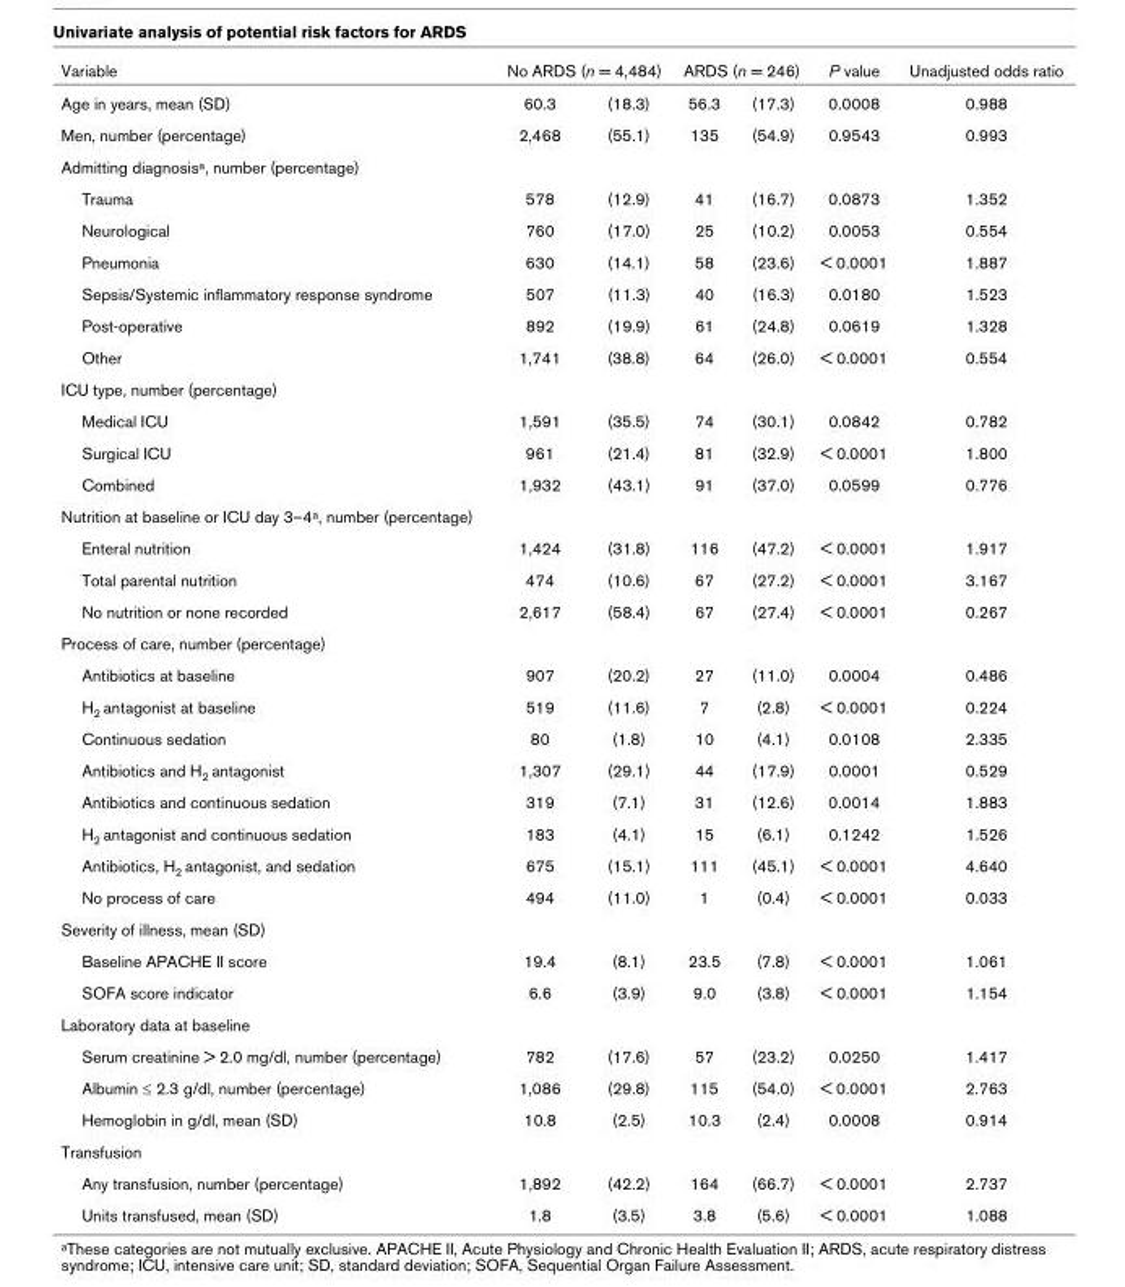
<table><thead><tr><td rowspan="2">Variable Age in years, mean (SD)</td><td colspan="2">No ARDS (n = 4,484)</td><td colspan="2">ARDS (n = 246)</td><td rowspan="2">P value 0.0008</td><td rowspan="2">Unadjusted odds ratio 0.988</td></tr><tr><td>60.3</td><td>(18.3)</td><td>56.3</td><td>(17.3)</td></tr></thead><tbody><tr><td>Men, number (percentage)</td><td>2,468</td><td>(55.1)</td><td>135</td><td>(54.9)</td><td>0.9543</td><td>0.993</td></tr><tr><td colspan="7">Admitting diagnosis<sup>a</sup>, number (percentage)</td></tr><tr><td>Trauma</td><td>578</td><td>(12.9)</td><td>41</td><td>(16.7)</td><td>0.0873</td><td>1.352</td></tr><tr><td>Neurological</td><td>760</td><td>(17.0)</td><td>25</td><td>(10.2)</td><td>0.0053</td><td>0.554</td></tr><tr><td>Pneumonia</td><td>630</td><td>(14.1)</td><td>58</td><td>(23.6)</td><td>&lt; 0.0001</td><td>1.887</td></tr><tr><td>Sepsis/Systemic inflammatory response syndrome</td><td>507</td><td>(11.3)</td><td>40</td><td>(16.3)</td><td>0.0180</td><td>1.523</td></tr><tr><td>Post-operative</td><td>892</td><td>(19.9)</td><td>61</td><td>(24.8)</td><td>0.0619</td><td>1.328</td></tr><tr><td>Other</td><td>1,741</td><td>(38.8)</td><td>64</td><td>(26.0)</td><td>&lt; 0.0001</td><td>0.554</td></tr><tr><td colspan="7">ICU type, number (percentage)</td></tr><tr><td>Medical ICU</td><td>1,591</td><td>(35.5)</td><td>74</td><td>(30.1)</td><td>0.0842</td><td>0.782</td></tr><tr><td>Surgical ICU</td><td>961</td><td>(21.4)</td><td>81</td><td>(32.9)</td><td>&lt; 0.0001</td><td>1.800</td></tr><tr><td>Combined</td><td>1,932</td><td>(43.1)</td><td>91</td><td>(37.0)</td><td>0.0599</td><td>0.776</td></tr><tr><td colspan="7">Nutrition at baseline or ICU day 3–4<sup>a</sup>, number (percentage)</td></tr><tr><td>Enteral nutrition</td><td>1,424</td><td>(31.8)</td><td>116</td><td>(47.2)</td><td>&lt; 0.0001</td><td>1.917</td></tr><tr><td>Total parental nutrition</td><td>474</td><td>(10.6)</td><td>67</td><td>(27.2)</td><td>&lt; 0.0001</td><td>3.167</td></tr><tr><td>No nutrition or none recorded</td><td>2,617</td><td>(58.4)</td><td>67</td><td>(27.4)</td><td>&lt; 0.0001</td><td>0.267</td></tr><tr><td colspan="7">Process of care, number (percentage)</td></tr><tr><td>Antibiotics at baseline</td><td>907</td><td>(20.2)</td><td>27</td><td>(11.0)</td><td>0.0004</td><td>0.486</td></tr><tr><td>H<sub>2</sub> antagonist at baseline</td><td>519</td><td>(11.6)</td><td>7</td><td>(2.8)</td><td>&lt; 0.0001</td><td>0.224</td></tr><tr><td>Continuous sedation</td><td>80</td><td>(1.8)</td><td>10</td><td>(4.1)</td><td>0.0108</td><td>2.335</td></tr><tr><td>Antibiotics and H<sub>2</sub> antagonist</td><td>1,307</td><td>(29.1)</td><td>44</td><td>(17.9)</td><td>0.0001</td><td>0.529</td></tr><tr><td>Antibiotics and continuous sedation</td><td>319</td><td>(7.1)</td><td>31</td><td>(12.6)</td><td>0.0014</td><td>1.883</td></tr><tr><td>H<sub>2</sub> antagonist and continuous sedation</td><td>183</td><td>(4.1)</td><td>15</td><td>(6.1)</td><td>0.1242</td><td>1.526</td></tr><tr><td>Antibiotics, H<sub>2</sub> antagonist, and sedation</td><td>675</td><td>(15.1)</td><td>111</td><td>(45.1)</td><td>&lt; 0.0001</td><td>4.640</td></tr><tr><td>No process of care</td><td>494</td><td>(11.0)</td><td>1</td><td>(0.4)</td><td>&lt; 0.0001</td><td>0.033</td></tr><tr><td colspan="7">Severity of illness, mean (SD)</td></tr><tr><td>Baseline APACHE II score</td><td>19.4</td><td>(8.1)</td><td>23.5</td><td>(7.8)</td><td>&lt; 0.0001</td><td>1.061</td></tr><tr><td>SOFA score indicator</td><td>6.6</td><td>(3.9)</td><td>9.0</td><td>(3.8)</td><td>&lt; 0.0001</td><td>1.154</td></tr><tr><td colspan="7">Laboratory data at baseline</td></tr><tr><td>Serum creatinine &gt; 2.0 mg/dl, number (percentage)</td><td>782</td><td>(17.6)</td><td>57</td><td>(23.2)</td><td>0.0250</td><td>1.417</td></tr><tr><td>Albumin ≤ 2.3 g/dl, number (percentage)</td><td>1,086</td><td>(29.8)</td><td>115</td><td>(54.0)</td><td>&lt; 0.0001</td><td>2.763</td></tr><tr><td>Hemoglobin in g/dl, mean (SD)</td><td>10.8</td><td>(2.5)</td><td>10.3</td><td>(2.4)</td><td>0.0008</td><td>0.914</td></tr><tr><td colspan="7">Transfusion</td></tr><tr><td>Any transfusion, number (percentage)</td><td>1,892</td><td>(42.2)</td><td>164</td><td>(66.7)</td><td>&lt; 0.0001</td><td>2.737</td></tr><tr><td>Units transfused, mean (SD)</td><td>1.8</td><td>(3.5)</td><td>3.8</td><td>(5.6)</td><td>&lt; 0.0001</td><td>1.088</td></tr></tbody></table>